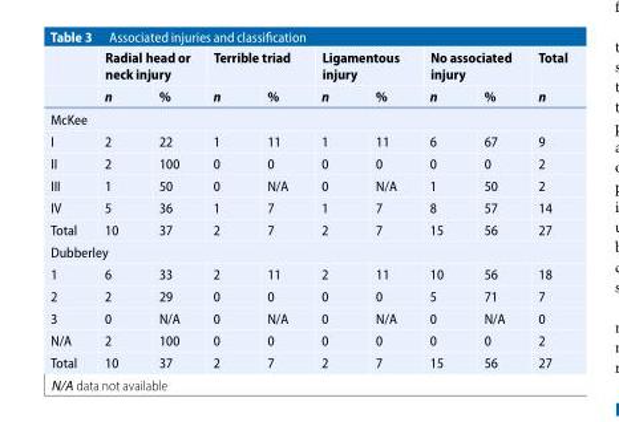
<table><thead><tr><td rowspan="2"></td><td colspan="2">Radial head or neck injury</td><td colspan="2">Terrible triad</td><td colspan="2">Ligamentous injury</td><td colspan="2">No associated injury</td><td rowspan="2">Total n</td></tr><tr><td>n</td><td>%</td><td>n</td><td>%</td><td>n</td><td>%</td><td>n</td><td>%</td></tr></thead><tbody><tr><td colspan="10">McKee</td></tr><tr><td>I</td><td>2</td><td>22</td><td>1</td><td>11</td><td>1</td><td>11</td><td>6</td><td>67</td><td>9</td></tr><tr><td>II</td><td>2</td><td>100</td><td>0</td><td>0</td><td>0</td><td>0</td><td>0</td><td>0</td><td>2</td></tr><tr><td>III</td><td>1</td><td>50</td><td>0</td><td>N/A</td><td>0</td><td>N/A</td><td>1</td><td>50</td><td>2</td></tr><tr><td>IV</td><td>5</td><td>36</td><td>1</td><td>7</td><td>1</td><td>7</td><td>8</td><td>57</td><td>14</td></tr><tr><td>Total</td><td>10</td><td>37</td><td>2</td><td>7</td><td>2</td><td>7</td><td>15</td><td>56</td><td>27</td></tr><tr><td colspan="10">Dubberley</td></tr><tr><td>1</td><td>6</td><td>33</td><td>2</td><td>11</td><td>2</td><td>11</td><td>10</td><td>56</td><td>18</td></tr><tr><td>2</td><td>2</td><td>29</td><td>0</td><td>0</td><td>0</td><td>0</td><td>5</td><td>71</td><td>7</td></tr><tr><td>3</td><td>0</td><td>N/A</td><td>0</td><td>N/A</td><td>0</td><td>N/A</td><td>0</td><td>N/A</td><td>0</td></tr><tr><td>N/A</td><td>2</td><td>100</td><td>0</td><td>0</td><td>0</td><td>0</td><td>0</td><td>0</td><td>2</td></tr><tr><td>Total</td><td>10</td><td>37</td><td>2</td><td>7</td><td>2</td><td>7</td><td>15</td><td>56</td><td>27</td></tr></tbody></table>